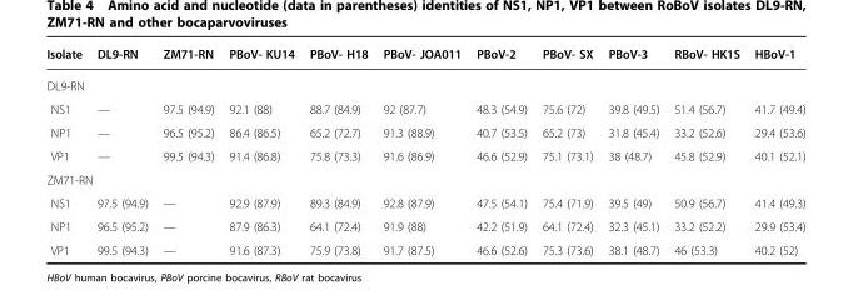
<table><thead><tr><td>Isolate</td><td>DL9-RN</td><td>ZM71-RN</td><td>PBoV- KU14</td><td>PBoV- H18</td><td>PBoV- JOA011</td><td>PBoV-2</td><td>PBoV- SX</td><td>PBoV-3</td><td>RBoV- HK1S</td><td>HBoV-1</td></tr></thead><tbody><tr><td colspan="11">DL9-RN</td></tr><tr><td>NS1</td><td>—</td><td>97.5 (94.9)</td><td>92.1 (88)</td><td>88.7 (84.9)</td><td>92 (87.7)</td><td>48.3 (54.9)</td><td>75.6 (72)</td><td>39.8 (49.5)</td><td>51.4 (56.7)</td><td>41.7 (49.4)</td></tr><tr><td>NP1</td><td>—</td><td>96.5 (95.2)</td><td>86.4 (86.5)</td><td>65.2 (72.7)</td><td>91.3 (88.9)</td><td>40.7 (53.5)</td><td>65.2 (73)</td><td>31.8 (45.4)</td><td>33.2 (52.6)</td><td>29.4 (53.6)</td></tr><tr><td>VP1</td><td>—</td><td>99.5 (94.3)</td><td>91.4 (86.8)</td><td>75.8 (73.3)</td><td>91.6 (86.9)</td><td>46.6 (52.9)</td><td>75.1 (73.1)</td><td>38 (48.7)</td><td>45.8 (52.9)</td><td>40.1 (52.1)</td></tr><tr><td colspan="11">ZM71-RN</td></tr><tr><td>NS1</td><td>97.5 (94.9)</td><td>—</td><td>92.9 (87.9)</td><td>89.3 (84.9)</td><td>92.8 (87.9)</td><td>47.5 (54.1)</td><td>75.4 (71.9)</td><td>39.5 (49)</td><td>50.9 (56.7)</td><td>41.4 (49.3)</td></tr><tr><td>NP1</td><td>96.5 (95.2)</td><td>—</td><td>87.9 (86.3)</td><td>64.1 (72.4)</td><td>91.9 (88)</td><td>42.2 (51.9)</td><td>64.1 (72.4)</td><td>32.3 (45.1)</td><td>33.2 (52.2)</td><td>29.9 (53.4)</td></tr><tr><td>VP1</td><td>99.5 (94.3)</td><td>—</td><td>91.6 (87.3)</td><td>75.9 (73.8)</td><td>91.7 (87.5)</td><td>46.6 (52.6)</td><td>75.3 (73.6)</td><td>38.1 (48.7)</td><td>46 (53.3)</td><td>40.2 (52)</td></tr></tbody></table>